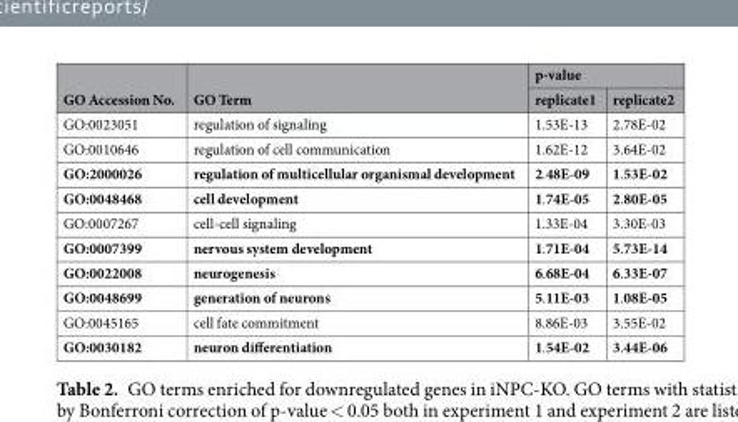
<table><thead><tr><td rowspan="2">GO Accession No.</td><td rowspan="2">GO Term</td><td colspan="2">p-value</td></tr><tr><td>replicate1</td><td>replicate2</td></tr></thead><tbody><tr><td>GO:0023051</td><td>regulation of signaling</td><td>1.53E-13</td><td>2.78E-02</td></tr><tr><td>GO:0010646</td><td>regulation of cell communication</td><td>1.62E-12</td><td>3.64E-02</td></tr><tr><td>GO:2000026</td><td>regulation of multicellular organismal development</td><td>2.48E-09</td><td>1.53E-02</td></tr><tr><td>GO:0048468</td><td>cell development</td><td>1.74E-05</td><td>2.80E-05</td></tr><tr><td>GO:0007267</td><td>cell-cell signaling</td><td>1.33E-04</td><td>3.30E-03</td></tr><tr><td>GO:0007399</td><td>nervous system development</td><td>1.71E-04</td><td>5.73E-14</td></tr><tr><td>GO:0022008</td><td>neurogenesis</td><td>6.68E-04</td><td>6.33E-07</td></tr><tr><td>GO:0048699</td><td>generation of neurons</td><td>5.11E-03</td><td>1.08E-05</td></tr><tr><td>GO:0045165</td><td>cell fate commitment</td><td>8.86E-03</td><td>3.55E-02</td></tr><tr><td>GO:0030182</td><td>neuron differentiation</td><td>1.54E-02</td><td>3.44E-06</td></tr></tbody></table>